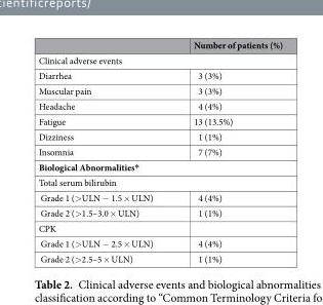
<table><thead><tr><td></td><td>Number of patients (%)</td></tr></thead><tbody><tr><td colspan="2">Clinical adverse events</td></tr><tr><td>Diarrhea</td><td>3 (3%)</td></tr><tr><td>Muscular pain</td><td>3 (3%)</td></tr><tr><td>Headache</td><td>4 (4%)</td></tr><tr><td>Fatigue</td><td>13 (13.5%)</td></tr><tr><td>Dizziness</td><td>1 (1%)</td></tr><tr><td>Insomnia</td><td>7 (7%)</td></tr><tr><td colspan="2">Biological Abnormalities*</td></tr><tr><td colspan="2">Total serum bilirubin</td></tr><tr><td>Grade 1 (&gt;ULN − 1.5 × ULN)</td><td>4 (4%)</td></tr><tr><td>Grade 2 (&gt;1.5–3.0 × ULN)</td><td>1 (1%)</td></tr><tr><td colspan="2">CPK</td></tr><tr><td>Grade 1 (&gt;ULN − 2.5 × ULN)</td><td>4 (4%)</td></tr><tr><td>Grade 2 (&gt;2.5–5 × ULN)</td><td>1 (1%)</td></tr></tbody></table>